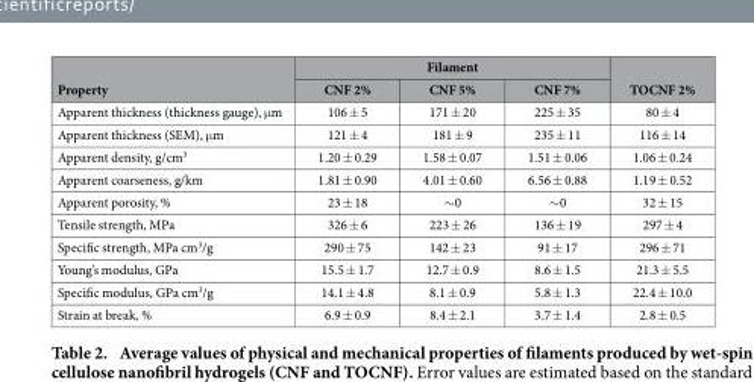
<table><thead><tr><td rowspan="2">Property</td><td colspan="3">Filament</td><td rowspan="2">TOCNF 2%</td></tr><tr><td>CNF 2%</td><td>CNF 5%</td><td>CNF 7%</td></tr></thead><tbody><tr><td>Apparent thickness (thickness gauge), μ m</td><td>106 ± 5</td><td>171 ± 20</td><td>225 ± 35</td><td>80 ± 4</td></tr><tr><td>Apparent thickness (SEM), μ m</td><td>121 ± 4</td><td>181 ± 9</td><td>235 ± 11</td><td>116 ± 14</td></tr><tr><td>Apparent density, g/cm<sup>3</sup></td><td>1.20 ± 0.29</td><td>1.58 ± 0.07</td><td>1.51 ± 0.06</td><td>1.06 ± 0.24</td></tr><tr><td>Apparent coarseness, g/km</td><td>1.81 ± 0.90</td><td>4.01 ± 0.60</td><td>6.56 ± 0.88</td><td>1.19 ± 0.52</td></tr><tr><td>Apparent porosity, %</td><td>23 ± 18</td><td>∼ 0</td><td>∼ 0</td><td>32 ± 15</td></tr><tr><td>Tensile strength, MPa</td><td>326 ± 6</td><td>223 ± 26</td><td>136 ± 19</td><td>297 ± 4</td></tr><tr><td>Specific strength, MPa cm<sup>3</sup>/g</td><td>290 ± 75</td><td>142 ± 23</td><td>91 ± 17</td><td>296 ± 71</td></tr><tr><td>Young’s modulus, GPa</td><td>15.5 ± 1.7</td><td>12.7 ± 0.9</td><td>8.6 ± 1.5</td><td>21.3 ± 5.5</td></tr><tr><td>Specific modulus, GPa cm<sup>3</sup>/g</td><td>14.1 ± 4.8</td><td>8.1 ± 0.9</td><td>5.8 ± 1.3</td><td>22.4 ± 10.0</td></tr><tr><td>Strain at break, %</td><td>6.9 ± 0.9</td><td>8.4 ± 2.1</td><td>3.7 ± 1.4</td><td>2.8 ± 0.5</td></tr></tbody></table>